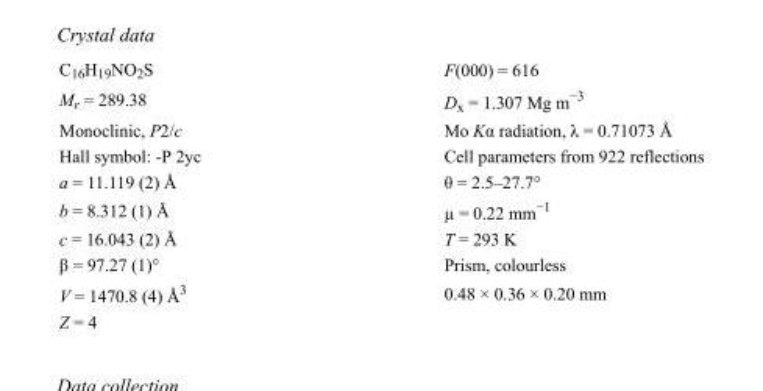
<table><tbody><tr><td>C<sub>16</sub>H<sub>19</sub>NO<sub>2</sub>S</td><td>F(000) = 616</td></tr><tr><td>M<sub>r</sub> = 289.38</td><td>D<sub>x</sub> = 1.307 Mg m<sup>−3</sup></td></tr><tr><td>Monoclinic, P2/c</td><td>Mo Kα radiation, λ = 0.71073 Å</td></tr><tr><td>Hall symbol: -P 2yc</td><td>Cell parameters from 922 reflections</td></tr><tr><td>a = 11.119 (2) Å</td><td>θ = 2.5–27.7°</td></tr><tr><td>b = 8.312 (1) Å</td><td>µ = 0.22 mm<sup>−1</sup></td></tr><tr><td>c = 16.043 (2) Å</td><td>T = 293 K</td></tr><tr><td>β = 97.27 (1)°</td><td>Prism, colourless</td></tr><tr><td>V = 1470.8 (4) Å<sup>3</sup></td><td>0.48 × 0.36 × 0.20 mm</td></tr><tr><td>Z = 4</td><td></td></tr></tbody></table>